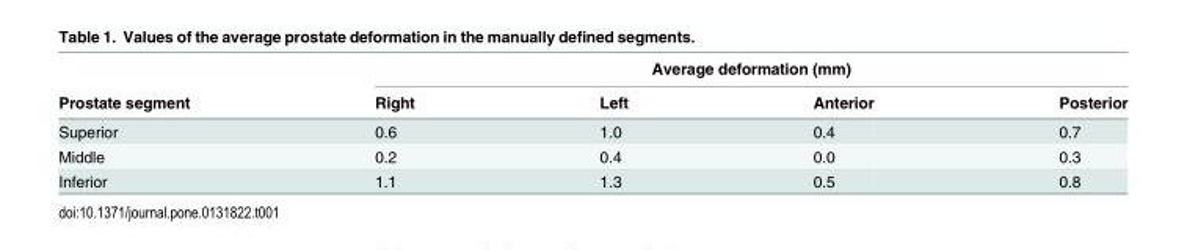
<table><thead><tr><td rowspan="2">Prostate segment</td><td colspan="4">Average deformation (mm)</td></tr><tr><td>Right</td><td>Left</td><td>Anterior</td><td>Posterior</td></tr></thead><tbody><tr><td>Superior</td><td>0.6</td><td>1.0</td><td>0.4</td><td>0.7</td></tr><tr><td>Middle</td><td>0.2</td><td>0.4</td><td>0.0</td><td>0.3</td></tr><tr><td>Inferior</td><td>1.1</td><td>1.3</td><td>0.5</td><td>0.8</td></tr></tbody></table>